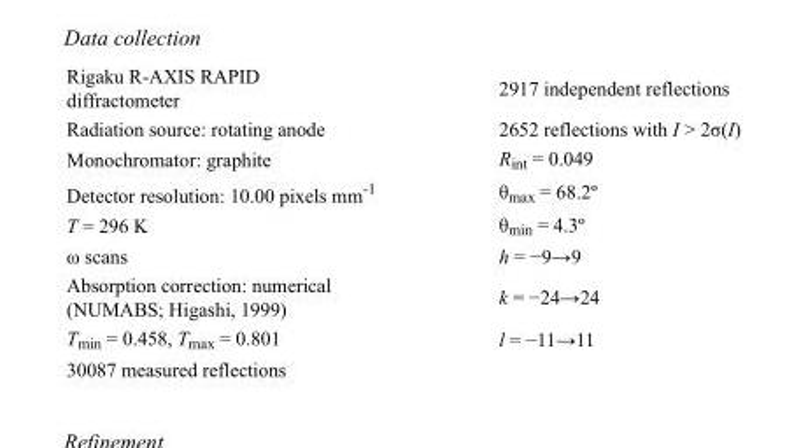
<table><tbody><tr><td>Rigaku R-AXIS RAPID diffractometer</td><td>2917 independent reflections</td></tr><tr><td>Radiation source: rotating anode</td><td>2652 reflections with I &gt; 2σ(I)</td></tr><tr><td>Monochromator: graphite</td><td>R<sub>int</sub> = 0.049</td></tr><tr><td>Detector resolution: 10.00 pixels mm<sup>-1</sup></td><td>θ<sub>max</sub> = 68.2º</td></tr><tr><td>T = 296 K</td><td>θ<sub>min</sub> = 4.3º</td></tr><tr><td>ω scans</td><td>h = −9→9</td></tr><tr><td>Absorption correction: numerical (NUMABS; Higashi, 1999)</td><td>k = −24→24</td></tr><tr><td>T<sub>min</sub> = 0.458, T<sub>max</sub> = 0.801</td><td>l = −11→11</td></tr><tr><td>30087 measured reflections</td><td></td></tr></tbody></table>